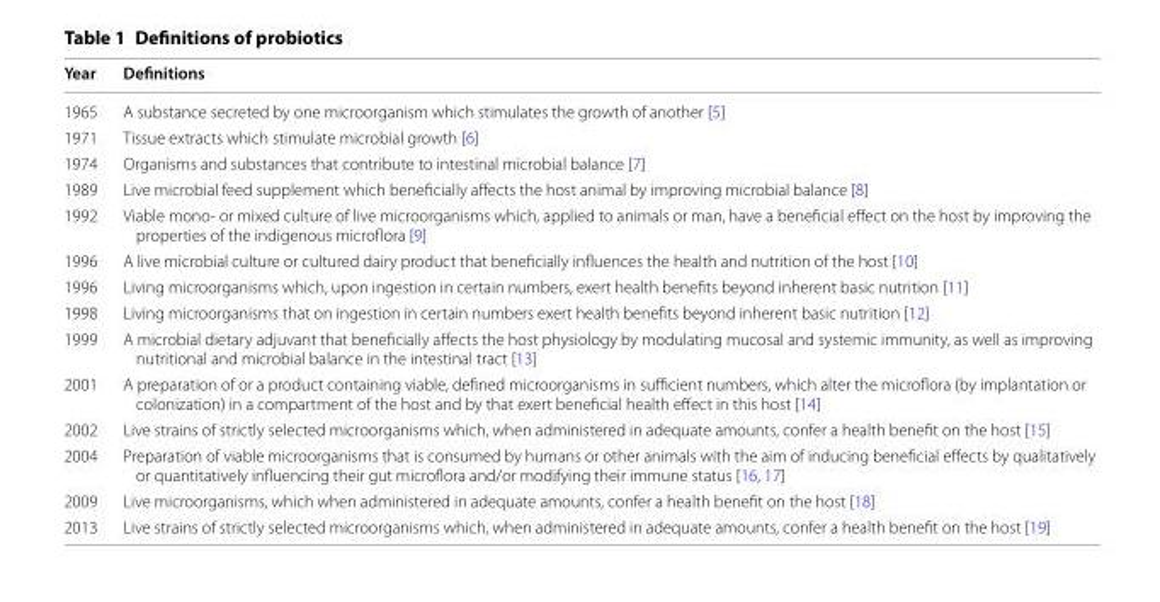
<table><thead><tr><td>Year</td><td>Definitions</td></tr></thead><tbody><tr><td>1965</td><td>A substance secreted by one microorganism which stimulates the growth of another [5]</td></tr><tr><td>1971</td><td>Tissue extracts which stimulate microbial growth [6]</td></tr><tr><td>1974</td><td>Organisms and substances that contribute to intestinal microbial balance [7]</td></tr><tr><td>1989</td><td>Live microbial feed supplement which beneficially affects the host animal by improving microbial balance [8]</td></tr><tr><td>1992</td><td>Viable mono- or mixed culture of live microorganisms which, applied to animals or man, have a beneficial effect on the host by improving the properties of the indigenous microflora [9]</td></tr><tr><td>1996</td><td>A live microbial culture or cultured dairy product that beneficially influences the health and nutrition of the host [10]</td></tr><tr><td>1996</td><td>Living microorganisms which, upon ingestion in certain numbers, exert health benefits beyond inherent basic nutrition [11]</td></tr><tr><td>1998</td><td>Living microorganisms that on ingestion in certain numbers exert health benefits beyond inherent basic nutrition [12]</td></tr><tr><td>1999</td><td>A microbial dietary adjuvant that beneficially affects the host physiology by modulating mucosal and systemic immunity, as well as improving nutritional and microbial balance in the intestinal tract [13]</td></tr><tr><td>2001</td><td>A preparation of or a product containing viable, defined microorganisms in sufficient numbers, which alter the microflora (by implantation or colonization) in a compartment of the host and by that exert beneficial health effect in this host [14]</td></tr><tr><td>2002</td><td>Live strains of strictly selected microorganisms which, when administered in adequate amounts, confer a health benefit on the host [15]</td></tr><tr><td>2004</td><td>Preparation of viable microorganisms that is consumed by humans or other animals with the aim of inducing beneficial effects by qualitatively or quantitatively influencing their gut microflora and/or modifying their immune status [16, 17]</td></tr><tr><td>2009</td><td>Live microorganisms, which when administered in adequate amounts, confer a health benefit on the host [18]</td></tr><tr><td>2013</td><td>Live strains of strictly selected microorganisms which, when administered in adequate amounts, confer a health benefit on the host [19]</td></tr></tbody></table>